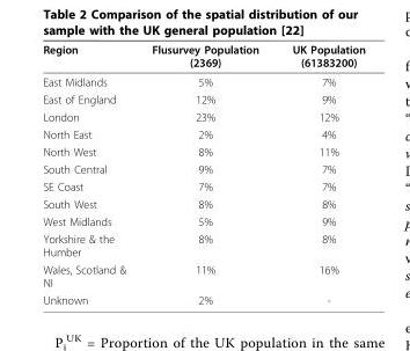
<table><thead><tr><td>Region</td><td>Flusurvey Population (2369)</td><td>UK Population (61383200)</td></tr></thead><tbody><tr><td>East Midlands</td><td>5%</td><td>7%</td></tr><tr><td>East of England</td><td>12%</td><td>9%</td></tr><tr><td>London</td><td>23%</td><td>12%</td></tr><tr><td>North East</td><td>2%</td><td>4%</td></tr><tr><td>North West</td><td>8%</td><td>11%</td></tr><tr><td>South Central</td><td>9%</td><td>7%</td></tr><tr><td>SE Coast</td><td>7%</td><td>7%</td></tr><tr><td>South West</td><td>8%</td><td>8%</td></tr><tr><td>West Midlands</td><td>5%</td><td>9%</td></tr><tr><td>Yorkshire &amp; the Humber</td><td>8%</td><td>8%</td></tr><tr><td>Wales, Scotland &amp; NI</td><td>11%</td><td>16%</td></tr><tr><td>Unknown</td><td>2%</td><td>-</td></tr></tbody></table>